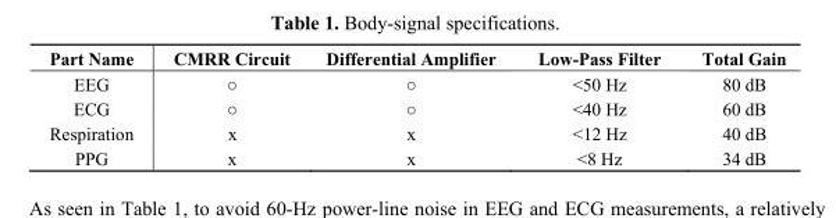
<table><thead><tr><td>Part Name</td><td>CMRR Circuit</td><td>Differential Amplifier</td><td>Low-Pass Filter</td><td>Total Gain</td></tr></thead><tbody><tr><td>EEG</td><td>○</td><td>○</td><td>&lt;50 Hz</td><td>80 dB</td></tr><tr><td>ECG</td><td>○</td><td>○</td><td>&lt;40 Hz</td><td>60 dB</td></tr><tr><td>Respiration</td><td>x</td><td>x</td><td>&lt;12 Hz</td><td>40 dB</td></tr><tr><td>PPG</td><td>x</td><td>x</td><td>&lt;8 Hz</td><td>34 dB</td></tr></tbody></table>